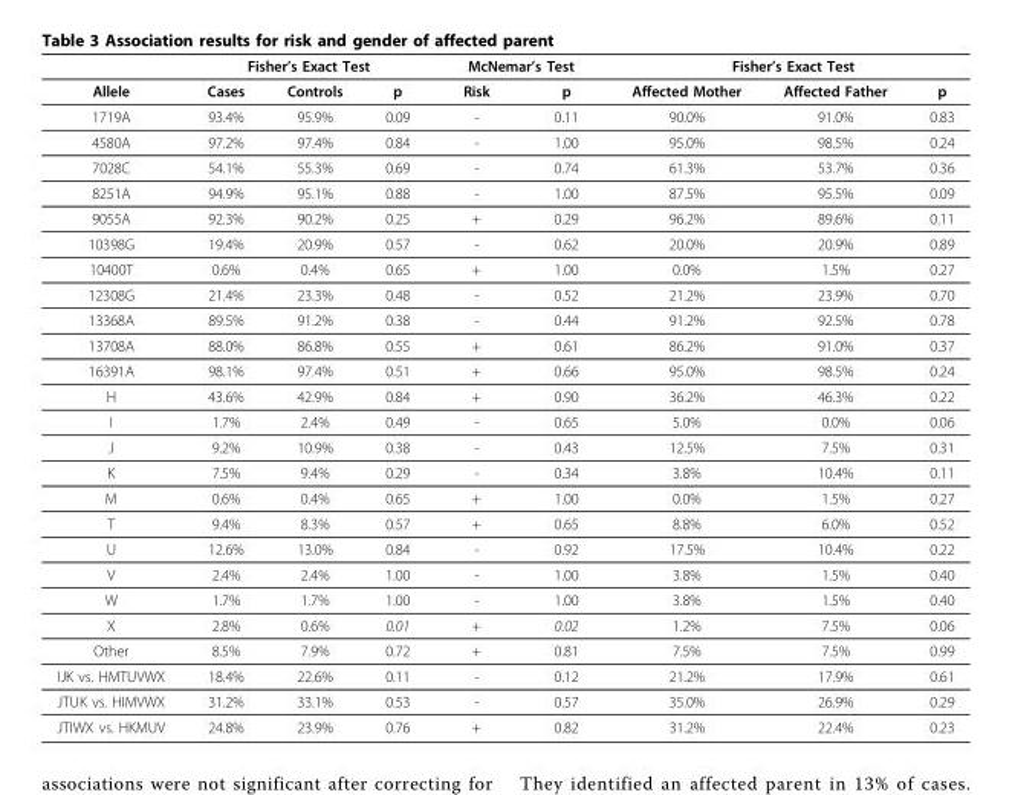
<table><thead><tr><td rowspan="2">Allele</td><td colspan="3">Fisher’s Exact Test</td><td colspan="2">McNemar’s Test</td><td colspan="3">Fisher’s Exact Test</td></tr><tr><td>Cases</td><td>Controls</td><td>p</td><td>Risk</td><td>p</td><td>Affected Mother</td><td>Affected Father</td><td>p</td></tr></thead><tbody><tr><td>1719A</td><td>93.4%</td><td>95.9%</td><td>0.09</td><td>-</td><td>0.11</td><td>90.0%</td><td>91.0%</td><td>0.83</td></tr><tr><td>4580A</td><td>97.2%</td><td>97.4%</td><td>0.84</td><td>-</td><td>1.00</td><td>95.0%</td><td>98.5%</td><td>0.24</td></tr><tr><td>7028C</td><td>54.1%</td><td>55.3%</td><td>0.69</td><td>-</td><td>0.74</td><td>61.3%</td><td>53.7%</td><td>0.36</td></tr><tr><td>8251A</td><td>94.9%</td><td>95.1%</td><td>0.88</td><td>-</td><td>1.00</td><td>87.5%</td><td>95.5%</td><td>0.09</td></tr><tr><td>9055A</td><td>92.3%</td><td>90.2%</td><td>0.25</td><td>+</td><td>0.29</td><td>96.2%</td><td>89.6%</td><td>0.11</td></tr><tr><td>10398G</td><td>19.4%</td><td>20.9%</td><td>0.57</td><td>-</td><td>0.62</td><td>20.0%</td><td>20.9%</td><td>0.89</td></tr><tr><td>10400T</td><td>0.6%</td><td>0.4%</td><td>0.65</td><td>+</td><td>1.00</td><td>0.0%</td><td>1.5%</td><td>0.27</td></tr><tr><td>12308G</td><td>21.4%</td><td>23.3%</td><td>0.48</td><td>-</td><td>0.52</td><td>21.2%</td><td>23.9%</td><td>0.70</td></tr><tr><td>13368A</td><td>89.5%</td><td>91.2%</td><td>0.38</td><td>-</td><td>0.44</td><td>91.2%</td><td>92.5%</td><td>0.78</td></tr><tr><td>13708A</td><td>88.0%</td><td>86.8%</td><td>0.55</td><td>+</td><td>0.61</td><td>86.2%</td><td>91.0%</td><td>0.37</td></tr><tr><td>16391A</td><td>98.1%</td><td>97.4%</td><td>0.51</td><td>+</td><td>0.66</td><td>95.0%</td><td>98.5%</td><td>0.24</td></tr><tr><td>H</td><td>43.6%</td><td>42.9%</td><td>0.84</td><td>+</td><td>0.90</td><td>36.2%</td><td>46.3%</td><td>0.22</td></tr><tr><td>I</td><td>1.7%</td><td>2.4%</td><td>0.49</td><td>-</td><td>0.65</td><td>5.0%</td><td>0.0%</td><td>0.06</td></tr><tr><td>J</td><td>9.2%</td><td>10.9%</td><td>0.38</td><td>-</td><td>0.43</td><td>12.5%</td><td>7.5%</td><td>0.31</td></tr><tr><td>K</td><td>7.5%</td><td>9.4%</td><td>0.29</td><td>-</td><td>0.34</td><td>3.8%</td><td>10.4%</td><td>0.11</td></tr><tr><td>M</td><td>0.6%</td><td>0.4%</td><td>0.65</td><td>+</td><td>1.00</td><td>0.0%</td><td>1.5%</td><td>0.27</td></tr><tr><td>T</td><td>9.4%</td><td>8.3%</td><td>0.57</td><td>+</td><td>0.65</td><td>8.8%</td><td>6.0%</td><td>0.52</td></tr><tr><td>U</td><td>12.6%</td><td>13.0%</td><td>0.84</td><td>-</td><td>0.92</td><td>17.5%</td><td>10.4%</td><td>0.22</td></tr><tr><td>V</td><td>2.4%</td><td>2.4%</td><td>1.00</td><td>-</td><td>1.00</td><td>3.8%</td><td>1.5%</td><td>0.40</td></tr><tr><td>W</td><td>1.7%</td><td>1.7%</td><td>1.00</td><td>-</td><td>1.00</td><td>3.8%</td><td>1.5%</td><td>0.40</td></tr><tr><td>X</td><td>2.8%</td><td>0.6%</td><td>0.01</td><td>+</td><td>0.02</td><td>1.2%</td><td>7.5%</td><td>0.06</td></tr><tr><td>Other</td><td>8.5%</td><td>7.9%</td><td>0.72</td><td>+</td><td>0.81</td><td>7.5%</td><td>7.5%</td><td>0.99</td></tr><tr><td>IJK vs. HMTUVWX</td><td>18.4%</td><td>22.6%</td><td>0.11</td><td>-</td><td>0.12</td><td>21.2%</td><td>17.9%</td><td>0.61</td></tr><tr><td>JTUK vs. HIMVWX</td><td>31.2%</td><td>33.1%</td><td>0.53</td><td>-</td><td>0.57</td><td>35.0%</td><td>26.9%</td><td>0.29</td></tr><tr><td>JTIWX vs. HKMUV</td><td>24.8%</td><td>23.9%</td><td>0.76</td><td>+</td><td>0.82</td><td>31.2%</td><td>22.4%</td><td>0.23</td></tr></tbody></table>